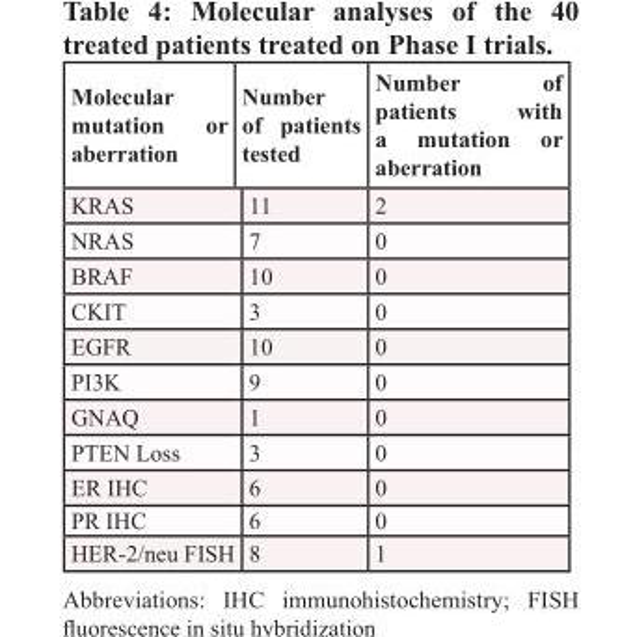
<table><thead><tr><td>Molecular mutation or aberration</td><td>Number of patients tested</td><td>Number of patients with a mutation or aberration</td></tr></thead><tbody><tr><td>KRAS</td><td>11</td><td>2</td></tr><tr><td>NRAS</td><td>7</td><td>0</td></tr><tr><td>BRAF</td><td>10</td><td>0</td></tr><tr><td>CKIT</td><td>3</td><td>0</td></tr><tr><td>EGFR</td><td>10</td><td>0</td></tr><tr><td>PI3K</td><td>9</td><td>0</td></tr><tr><td>GNAQ</td><td>1</td><td>0</td></tr><tr><td>PTEN Loss</td><td>3</td><td>0</td></tr><tr><td>ER IHC</td><td>6</td><td>0</td></tr><tr><td>PR IHC</td><td>6</td><td>0</td></tr><tr><td>HER-2/neu FISH</td><td>8</td><td>1</td></tr></tbody></table>